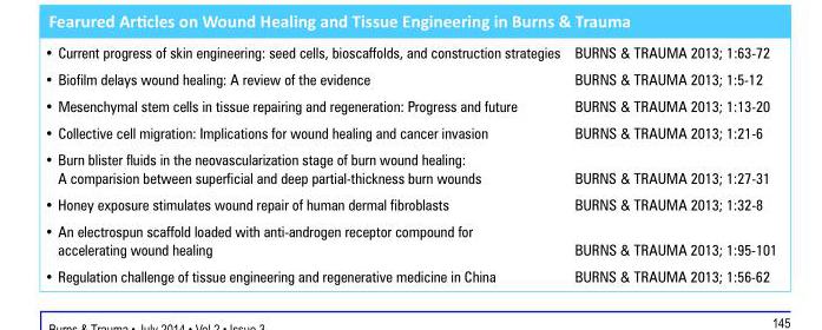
<table><tbody><tr><td>• Current progress of skin engineering: seed cells, bioscaffolds, and construction strategies</td><td>BURNS &amp; TRAUMA 2013; 1:63-72</td></tr><tr><td>• Biofilm delays wound healing: A review of the evidence</td><td>BURNS &amp; TRAUMA 2013; 1:5-12</td></tr><tr><td>• Mesenchymal stem cells in tissue repairing and regeneration: Progress and future</td><td>BURNS &amp; TRAUMA 2013; 1:13-20</td></tr><tr><td>• Collective cell migration: Implications for wound healing and cancer invasion</td><td>BURNS &amp; TRAUMA 2013; 1:21-6</td></tr><tr><td>• Burn blister fluids in the neovascularization stage of burn wound healing: A comparision between superficial and deep partial-thickness burn wounds</td><td>BURNS &amp; TRAUMA 2013; 1:27-31</td></tr><tr><td>• Honey exposure stimulates wound repair of human dermal fibroblasts</td><td>BURNS &amp; TRAUMA 2013; 1:32-8</td></tr><tr><td>• An electrospun scaffold loaded with anti-androgen receptor compound for accelerating wound healing</td><td>BURNS &amp; TRAUMA 2013; 1:95-101</td></tr><tr><td>• Regulation challenge of tissue engineering and regenerative medicine in China</td><td>BURNS &amp; TRAUMA 2013; 1:56-62</td></tr></tbody></table>